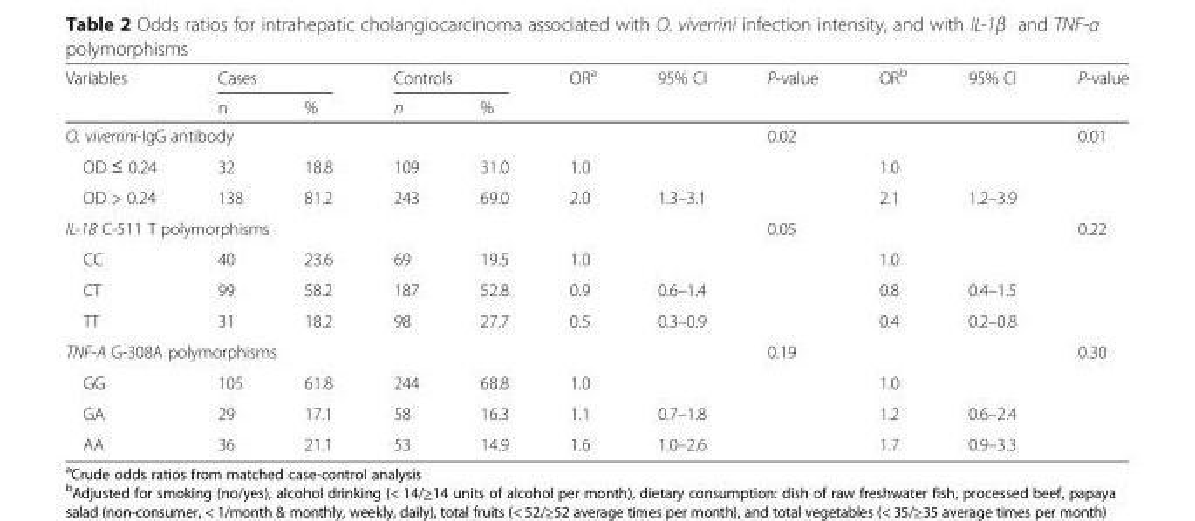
<table><thead><tr><td rowspan="2">Variables</td><td colspan="2">Cases</td><td colspan="2">Controls</td><td rowspan="2">OR<sup>a</sup></td><td rowspan="2">95% CI</td><td rowspan="2">P-value</td><td rowspan="2">OR<sup>b</sup></td><td rowspan="2">95% CI</td><td rowspan="2">P-value</td></tr><tr><td>n</td><td>%</td><td>n</td><td>%</td></tr></thead><tbody><tr><td colspan="7">O. viverrini-IgG antibody</td><td>0.02</td><td></td><td></td><td>0.01</td></tr><tr><td>OD ≤ 0.24</td><td>32</td><td>18.8</td><td>109</td><td>31.0</td><td>1.0</td><td></td><td></td><td>1.0</td><td></td><td></td></tr><tr><td>OD &gt; 0.24</td><td>138</td><td>81.2</td><td>243</td><td>69.0</td><td>2.0</td><td>1.3–3.1</td><td></td><td>2.1</td><td>1.2–3.9</td><td></td></tr><tr><td colspan="7">IL-1B C-511 T polymorphisms</td><td>0.05</td><td></td><td></td><td>0.22</td></tr><tr><td>CC</td><td>40</td><td>23.6</td><td>69</td><td>19.5</td><td>1.0</td><td></td><td></td><td>1.0</td><td></td><td></td></tr><tr><td>CT</td><td>99</td><td>58.2</td><td>187</td><td>52.8</td><td>0.9</td><td>0.6–1.4</td><td></td><td>0.8</td><td>0.4–1.5</td><td></td></tr><tr><td>TT</td><td>31</td><td>18.2</td><td>98</td><td>27.7</td><td>0.5</td><td>0.3–0.9</td><td></td><td>0.4</td><td>0.2–0.8</td><td></td></tr><tr><td colspan="7">TNF-A G-308A polymorphisms</td><td>0.19</td><td></td><td></td><td>0.30</td></tr><tr><td>GG</td><td>105</td><td>61.8</td><td>244</td><td>68.8</td><td>1.0</td><td></td><td></td><td>1.0</td><td></td><td></td></tr><tr><td>GA</td><td>29</td><td>17.1</td><td>58</td><td>16.3</td><td>1.1</td><td>0.7–1.8</td><td></td><td>1.2</td><td>0.6–2.4</td><td></td></tr><tr><td>AA</td><td>36</td><td>21.1</td><td>53</td><td>14.9</td><td>1.6</td><td>1.0–2.6</td><td></td><td>1.7</td><td>0.9–3.3</td><td></td></tr></tbody></table>